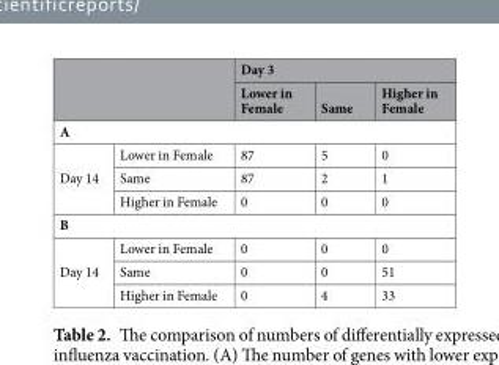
<table><thead><tr><td rowspan="2"></td><td rowspan="2"></td><td colspan="3">Day 3</td></tr><tr><td>Lower in Female</td><td>Same</td><td>Higher in Female</td></tr></thead><tbody><tr><td colspan="5">A</td></tr><tr><td rowspan="3">Day 14</td><td>Lower in Female</td><td>87</td><td>5</td><td>0</td></tr><tr><td>Same</td><td>87</td><td>2</td><td>1</td></tr><tr><td>Higher in Female</td><td>0</td><td>0</td><td>0</td></tr><tr><td colspan="5">B</td></tr><tr><td rowspan="3">Day 14</td><td>Lower in Female</td><td>0</td><td>0</td><td>0</td></tr><tr><td>Same</td><td>0</td><td>0</td><td>51</td></tr><tr><td>Higher in Female</td><td>0</td><td>4</td><td>33</td></tr></tbody></table>